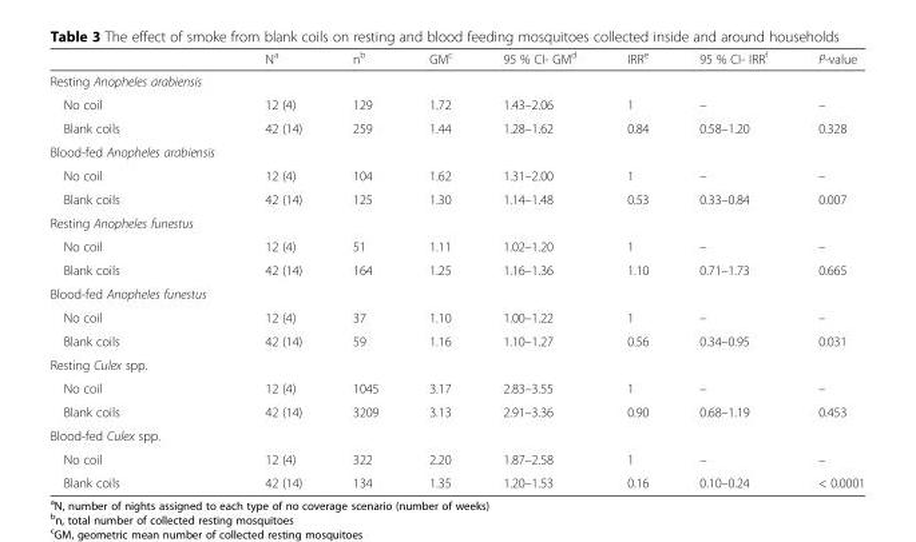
<table><thead><tr><td></td><td>N<sup>a</sup></td><td>n<sup>b</sup></td><td>GM<sup>c</sup></td><td>95 % CI- GM<sup>d</sup></td><td>IRR<sup>e</sup></td><td>95 % CI- IRR<sup>f</sup></td><td>P-value</td></tr></thead><tbody><tr><td colspan="8">Resting Anopheles arabiensis</td></tr><tr><td>No coil</td><td>12 (4)</td><td>129</td><td>1.72</td><td>1.43–2.06</td><td>1</td><td>–</td><td>–</td></tr><tr><td>Blank coils</td><td>42 (14)</td><td>259</td><td>1.44</td><td>1.28–1.62</td><td>0.84</td><td>0.58–1.20</td><td>0.328</td></tr><tr><td colspan="8">Blood-fed Anopheles arabiensis</td></tr><tr><td>No coil</td><td>12 (4)</td><td>104</td><td>1.62</td><td>1.31–2.00</td><td>1</td><td>–</td><td>–</td></tr><tr><td>Blank coils</td><td>42 (14)</td><td>125</td><td>1.30</td><td>1.14–1.48</td><td>0.53</td><td>0.33–0.84</td><td>0.007</td></tr><tr><td colspan="8">Resting Anopheles funestus</td></tr><tr><td>No coil</td><td>12 (4)</td><td>51</td><td>1.11</td><td>1.02–1.20</td><td>1</td><td>–</td><td>–</td></tr><tr><td>Blank coils</td><td>42 (14)</td><td>164</td><td>1.25</td><td>1.16–1.36</td><td>1.10</td><td>0.71–1.73</td><td>0.665</td></tr><tr><td colspan="8">Blood-fed Anopheles funestus</td></tr><tr><td>No coil</td><td>12 (4)</td><td>37</td><td>1.10</td><td>1.00–1.22</td><td>1</td><td>–</td><td>–</td></tr><tr><td>Blank coils</td><td>42 (14)</td><td>59</td><td>1.16</td><td>1.10–1.27</td><td>0.56</td><td>0.34–0.95</td><td>0.031</td></tr><tr><td colspan="8">Resting Culex spp.</td></tr><tr><td>No coil</td><td>12 (4)</td><td>1045</td><td>3.17</td><td>2.83–3.55</td><td>1</td><td>–</td><td>–</td></tr><tr><td>Blank coils</td><td>42 (14)</td><td>3209</td><td>3.13</td><td>2.91–3.36</td><td>0.90</td><td>0.68–1.19</td><td>0.453</td></tr><tr><td colspan="8">Blood-fed Culex spp.</td></tr><tr><td>No coil</td><td>12 (4)</td><td>322</td><td>2.20</td><td>1.87–2.58</td><td>1</td><td>–</td><td>–</td></tr><tr><td>Blank coils</td><td>42 (14)</td><td>134</td><td>1.35</td><td>1.20–1.53</td><td>0.16</td><td>0.10–0.24</td><td>&lt; 0.0001</td></tr></tbody></table>